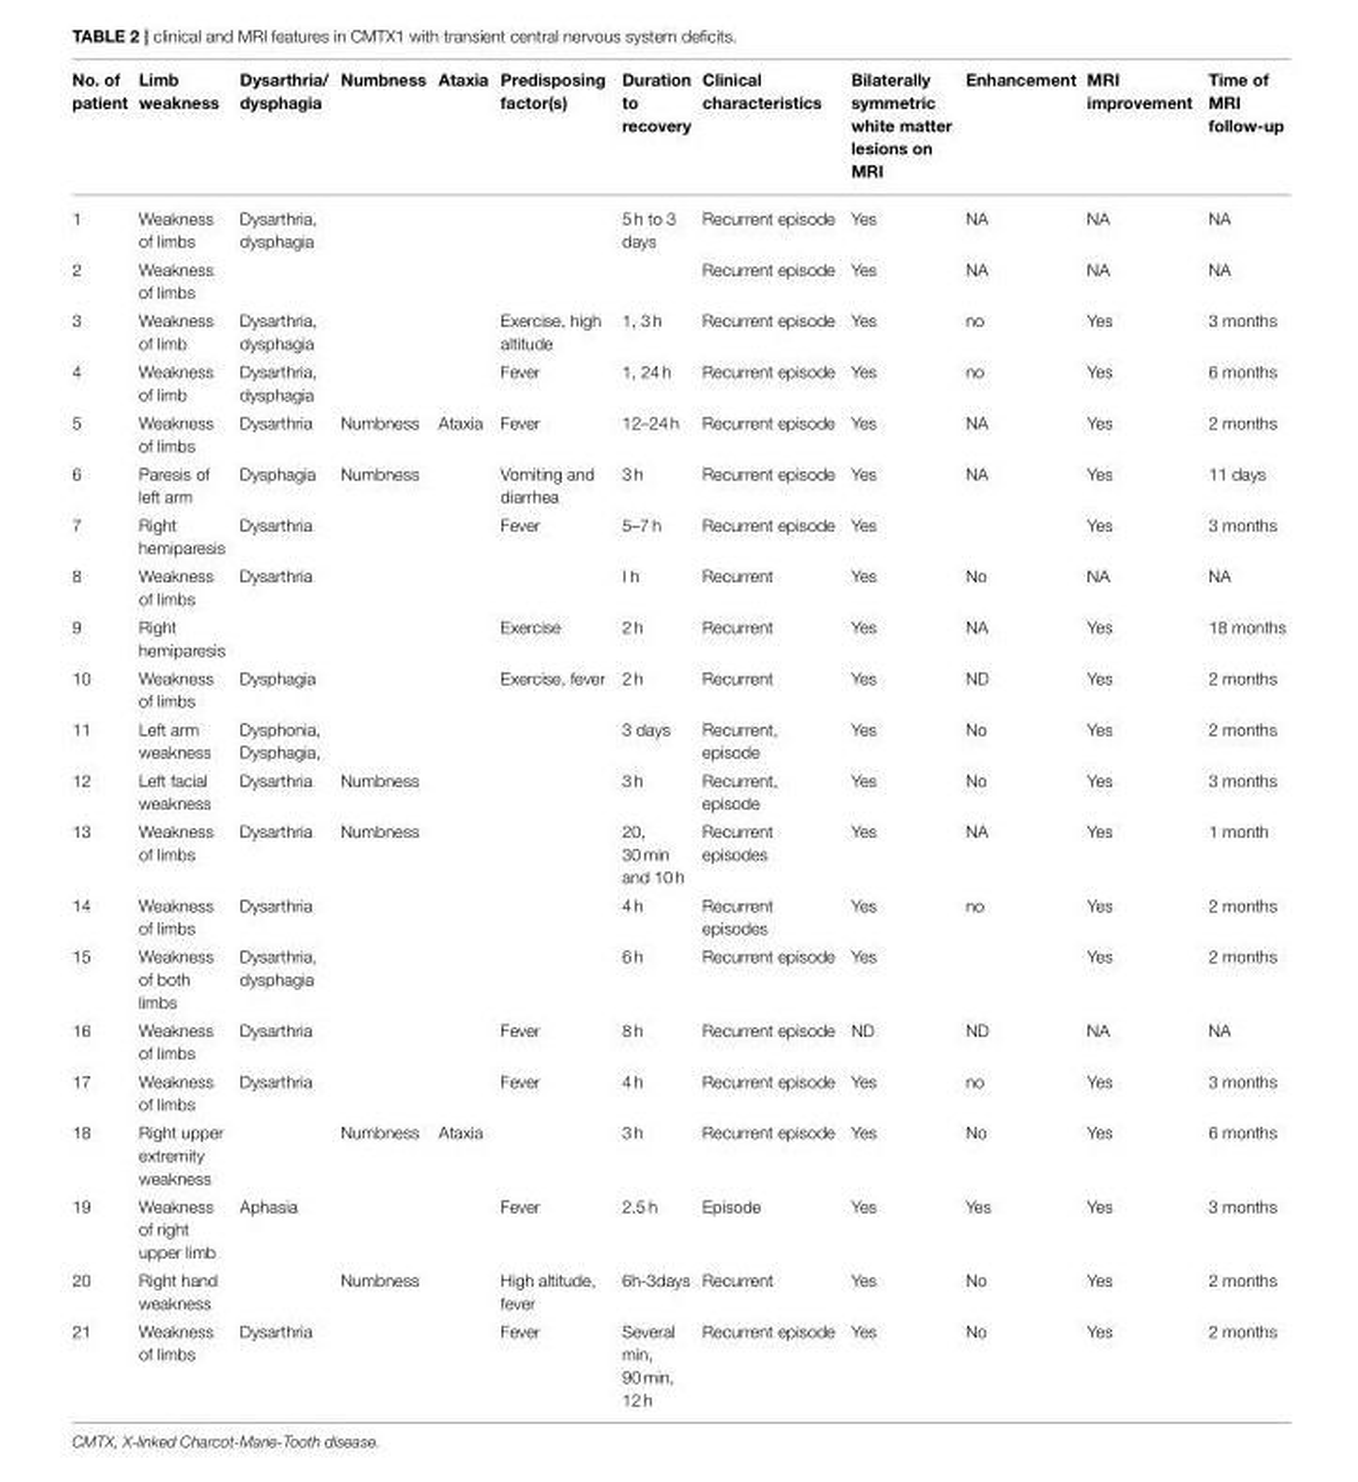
<table><thead><tr><td>No. of patient</td><td>Limb weakness</td><td>Dysarthria/ dysphagia</td><td>Numbness</td><td>Ataxia</td><td>Predisposing factor(s)</td><td>Duration to recovery</td><td>Clinical characteristics</td><td>Bilaterally symmetric white matter lesions on MRI</td><td>Enhancement</td><td>MRI improvement</td><td>Time of MRI follow-up</td></tr></thead><tbody><tr><td>1</td><td>Weakness of limbs</td><td>Dysarthria, dysphagia</td><td></td><td></td><td></td><td>5 h to 3 days</td><td>Recurrent episode</td><td>Yes</td><td>NA</td><td>NA</td><td>NA</td></tr><tr><td>2</td><td>Weakness of limbs</td><td></td><td></td><td></td><td></td><td></td><td>Recurrent episode</td><td>Yes</td><td>NA</td><td>NA</td><td>NA</td></tr><tr><td>3</td><td>Weakness of limb</td><td>Dysarthria, dysphagia</td><td></td><td></td><td>Exercise, high altitude</td><td>1, 3 h</td><td>Recurrent episode</td><td>Yes</td><td>no</td><td>Yes</td><td>3 months</td></tr><tr><td>4</td><td>Weakness of limb</td><td>Dysarthria, dysphagia</td><td></td><td></td><td>Fever</td><td>1, 24 h</td><td>Recurrent episode</td><td>Yes</td><td>no</td><td>Yes</td><td>6 months</td></tr><tr><td>5</td><td>Weakness of limbs</td><td>Dysarthria</td><td>Numbness</td><td>Ataxia</td><td>Fever</td><td>12–24 h</td><td>Recurrent episode</td><td>Yes</td><td>NA</td><td>Yes</td><td>2 months</td></tr><tr><td>6</td><td>Paresis of left arm</td><td>Dysphagia</td><td>Numbness</td><td></td><td>Vomiting and diarrhea</td><td>3 h</td><td>Recurrent episode</td><td>Yes</td><td>NA</td><td>Yes</td><td>11 days</td></tr><tr><td>7</td><td>Right hemiparesis</td><td>Dysarthria</td><td></td><td></td><td>Fever</td><td>5–7 h</td><td>Recurrent episode</td><td>Yes</td><td></td><td>Yes</td><td>3 months</td></tr><tr><td>8</td><td>Weakness of limbs</td><td>Dysarthria</td><td></td><td></td><td></td><td>I h</td><td>Recurrent</td><td>Yes</td><td>No</td><td>NA</td><td>NA</td></tr><tr><td>9</td><td>Right hemiparesis</td><td></td><td></td><td></td><td>Exercise</td><td>2 h</td><td>Recurrent</td><td>Yes</td><td>NA</td><td>Yes</td><td>18 months</td></tr><tr><td>10</td><td>Weakness of limbs</td><td>Dysphagia</td><td></td><td></td><td>Exercise, fever</td><td>2 h</td><td>Recurrent</td><td>Yes</td><td>ND</td><td>Yes</td><td>2 months</td></tr><tr><td>11</td><td>Left arm weakness</td><td>Dysphonia, Dysphagia,</td><td></td><td></td><td></td><td>3 days</td><td>Recurrent, episode</td><td>Yes</td><td>No</td><td>Yes</td><td>2 months</td></tr><tr><td>12</td><td>Left facial weakness</td><td>Dysarthria</td><td>Numbness</td><td></td><td></td><td>3 h</td><td>Recurrent, episode</td><td>Yes</td><td>No</td><td>Yes</td><td>3 months</td></tr><tr><td>13</td><td>Weakness of limbs</td><td>Dysarthria</td><td>Numbness</td><td></td><td></td><td>20, 30 min and 10 h</td><td>Recurrent episodes</td><td>Yes</td><td>NA</td><td>Yes</td><td>1 month</td></tr><tr><td>14</td><td>Weakness of limbs</td><td>Dysarthria</td><td></td><td></td><td></td><td>4 h</td><td>Recurrent episodes</td><td>Yes</td><td>no</td><td>Yes</td><td>2 months</td></tr><tr><td>15</td><td>Weakness of both limbs</td><td>Dysarthria, dysphagia</td><td></td><td></td><td></td><td>6 h</td><td>Recurrent episode</td><td>Yes</td><td></td><td>Yes</td><td>2 months</td></tr><tr><td>16</td><td>Weakness of limbs</td><td>Dysarthria</td><td></td><td></td><td>Fever</td><td>8 h</td><td>Recurrent episode</td><td>ND</td><td>ND</td><td>NA</td><td>NA</td></tr><tr><td>17</td><td>Weakness of limbs</td><td>Dysarthria</td><td></td><td></td><td>Fever</td><td>4 h</td><td>Recurrent episode</td><td>Yes</td><td>no</td><td>Yes</td><td>3 months</td></tr><tr><td>18</td><td>Right upper extremity weakness</td><td></td><td>Numbness</td><td>Ataxia</td><td></td><td>3 h</td><td>Recurrent episode</td><td>Yes</td><td>No</td><td>Yes</td><td>6 months</td></tr><tr><td>19</td><td>Weakness of right upper limb</td><td>Aphasia</td><td></td><td></td><td>Fever</td><td>2.5 h</td><td>Episode</td><td>Yes</td><td>Yes</td><td>Yes</td><td>3 months</td></tr><tr><td>20</td><td>Right hand weakness</td><td></td><td>Numbness</td><td></td><td>High altitude, fever</td><td>6h-3days</td><td>Recurrent</td><td>Yes</td><td>No</td><td>Yes</td><td>2 months</td></tr><tr><td>21</td><td>Weakness of limbs</td><td>Dysarthria</td><td></td><td></td><td>Fever</td><td>Several min, 90 min, 12 h</td><td>Recurrent episode</td><td>Yes</td><td>No</td><td>Yes</td><td>2 months</td></tr></tbody></table>